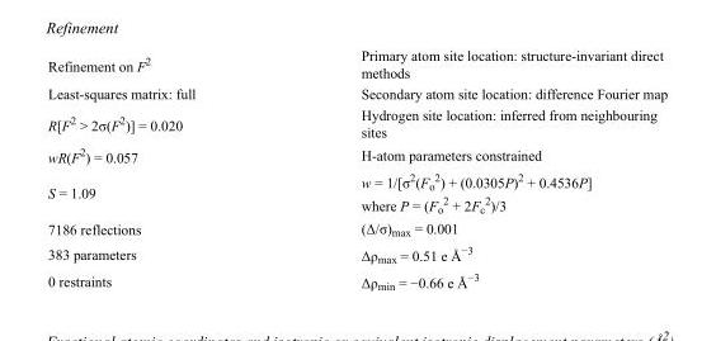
<table><tbody><tr><td>Refinement on F<sup>2</sup></td><td>Primary atom site location: structure-invariant direct methods</td></tr><tr><td>Least-squares matrix: full</td><td>Secondary atom site location: difference Fourier map</td></tr><tr><td>R[F<sup>2</sup> &gt; 2σ(F<sup>2</sup>)] = 0.020</td><td>Hydrogen site location: inferred from neighbouring sites</td></tr><tr><td>wR(F<sup>2</sup>) = 0.057</td><td>H-atom parameters constrained</td></tr><tr><td>S = 1.09</td><td>w = 1/[σ<sup>2</sup>(F<sub>o</sub> <sup>2</sup>) + (0.0305P)<sup>2</sup> + 0.4536P] where P = (F<sub>o</sub> <sup>2</sup> + 2F<sub>c</sub> <sup>2</sup>)/3</td></tr><tr><td>7186 reflections</td><td>(Δ/σ)<sub>max</sub> = 0.001</td></tr><tr><td>383 parameters</td><td>Δρ<sub>max</sub> = 0.51 e Å<sup>−3</sup></td></tr><tr><td>0 restraints</td><td>Δρ<sub>min</sub> = −0.66 e Å<sup>−3</sup></td></tr></tbody></table>